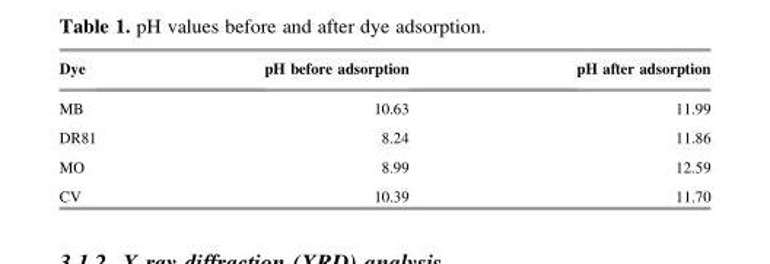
<table><thead><tr><td>Dye</td><td>pH before adsorption</td><td>pH after adsorption</td></tr></thead><tbody><tr><td>MB</td><td>10.63</td><td>11.99</td></tr><tr><td>DR81</td><td>8.24</td><td>11.86</td></tr><tr><td>MO</td><td>8.99</td><td>12.59</td></tr><tr><td>CV</td><td>10.39</td><td>11.70</td></tr></tbody></table>